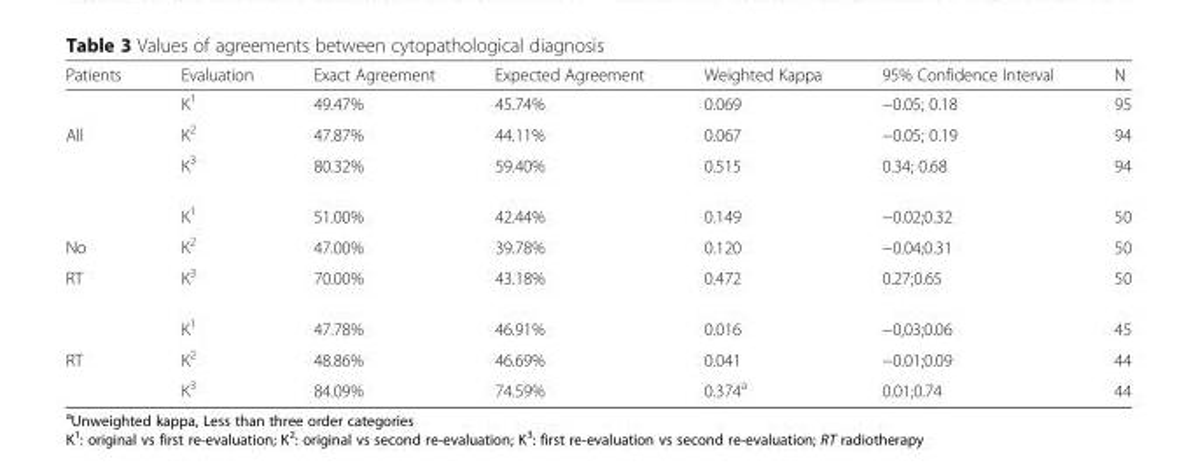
<table><thead><tr><td>Patients</td><td>Evaluation</td><td>Exact Agreement</td><td>Expected Agreement</td><td>Weighted Kappa</td><td>95% Confidence Interval</td><td>N</td></tr></thead><tbody><tr><td></td><td>K<sup>1</sup></td><td>49.47%</td><td>45.74%</td><td>0.069</td><td>−0.05; 0.18</td><td>95</td></tr><tr><td rowspan="3">All</td><td>K<sup>2</sup></td><td>47.87%</td><td>44.11%</td><td>0.067</td><td>−0.05; 0.19</td><td>94</td></tr><tr><td>K<sup>3</sup></td><td>80.32%</td><td>59.40%</td><td>0.515</td><td>0.34; 0.68</td><td>94</td></tr><tr><td>K<sup>1</sup></td><td>51.00%</td><td>42.44%</td><td>0.149</td><td>−0.02;0.32</td><td>50</td></tr><tr><td>No</td><td>K<sup>2</sup></td><td>47.00%</td><td>39.78%</td><td>0.120</td><td>−0.04;0.31</td><td>50</td></tr><tr><td rowspan="2">RT</td><td>K<sup>3</sup></td><td>70.00%</td><td>43.18%</td><td>0.472</td><td>0.27;0.65</td><td>50</td></tr><tr><td>K<sup>1</sup></td><td>47.78%</td><td>46.91%</td><td>0.016</td><td>−0,03;0.06</td><td>45</td></tr><tr><td rowspan="2">RT</td><td>K<sup>2</sup></td><td>48.86%</td><td>46.69%</td><td>0.041</td><td>−0.01;0.09</td><td>44</td></tr><tr><td>K<sup>3</sup></td><td>84.09%</td><td>74.59%</td><td>0.374<sup>a</sup></td><td>0.01;0.74</td><td>44</td></tr></tbody></table>